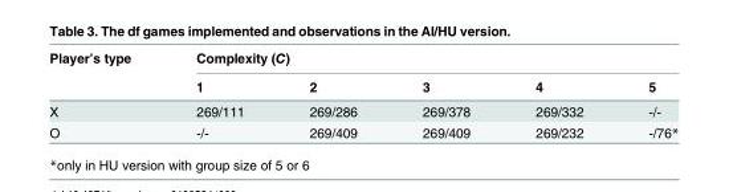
<table><thead><tr><td rowspan="2">Player’s type</td><td colspan="5">Complexity (C)</td></tr><tr><td>1</td><td>2</td><td>3</td><td>4</td><td>5</td></tr></thead><tbody><tr><td>X</td><td>269/111</td><td>269/286</td><td>269/378</td><td>269/332</td><td>-/-</td></tr><tr><td>O</td><td>-/-</td><td>269/409</td><td>269/409</td><td>269/232</td><td>-/76*</td></tr></tbody></table>